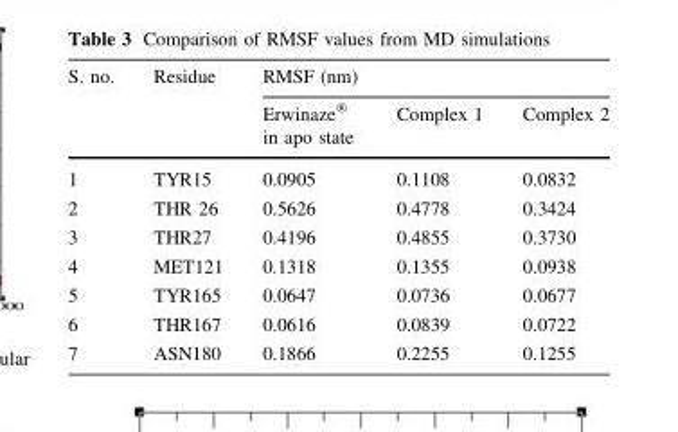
<table><thead><tr><td rowspan="2">S. no.</td><td rowspan="2">Residue</td><td colspan="3">RMSF (nm)</td></tr><tr><td>Erwinaze<sup>®</sup> in apo state</td><td>Complex 1</td><td>Complex 2</td></tr></thead><tbody><tr><td>1</td><td>TYR15</td><td>0.0905</td><td>0.1108</td><td>0.0832</td></tr><tr><td>2</td><td>THR 26</td><td>0.5626</td><td>0.4778</td><td>0.3424</td></tr><tr><td>3</td><td>THR27</td><td>0.4196</td><td>0.4855</td><td>0.3730</td></tr><tr><td>4</td><td>MET121</td><td>0.1318</td><td>0.1355</td><td>0.0938</td></tr><tr><td>5</td><td>TYR165</td><td>0.0647</td><td>0.0736</td><td>0.0677</td></tr><tr><td>6</td><td>THR167</td><td>0.0616</td><td>0.0839</td><td>0.0722</td></tr><tr><td>7</td><td>ASN180</td><td>0.1866</td><td>0.2255</td><td>0.1255</td></tr></tbody></table>